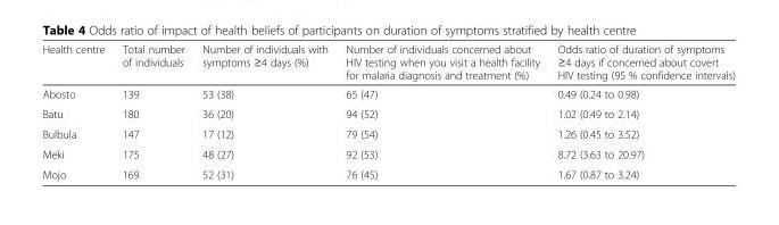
<table><thead><tr><td>Health centre</td><td>Total number of individuals</td><td>Number of individuals with symptoms ≥4 days (%)</td><td>Number of individuals concerned about HIV testing when you visit a health facility for malaria diagnosis and treatment (%)</td><td>Odds ratio of duration of symptoms ≥4 days if concerned about covert HIV testing (95 % confidence intervals)</td></tr></thead><tbody><tr><td>Abosto</td><td>139</td><td>53 (38)</td><td>65 (47)</td><td>0.49 (0.24 to 0.98)</td></tr><tr><td>Batu</td><td>180</td><td>36 (20)</td><td>94 (52)</td><td>1.02 (0.49 to 2.14)</td></tr><tr><td>Bulbula</td><td>147</td><td>17 (12)</td><td>79 (54)</td><td>1.26 (0.45 to 3.52)</td></tr><tr><td>Meki</td><td>175</td><td>48 (27)</td><td>92 (53)</td><td>8.72 (3.63 to 20.97)</td></tr><tr><td>Mojo</td><td>169</td><td>52 (31)</td><td>76 (45)</td><td>1.67 (0.87 to 3.24)</td></tr></tbody></table>